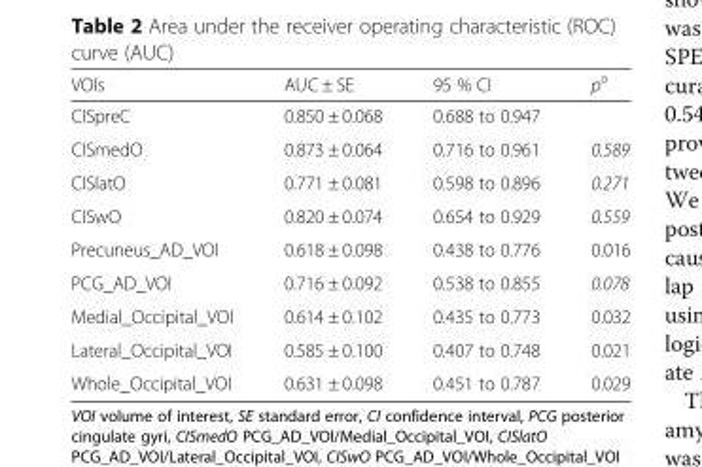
<table><thead><tr><td>VOIs</td><td>AUC ± SE</td><td>95 % CI</td><td>p<sup>a</sup></td></tr></thead><tbody><tr><td>CISpreC</td><td>0.850 ± 0.068</td><td>0.688 to 0.947</td><td></td></tr><tr><td>CISmedO</td><td>0.873 ± 0.064</td><td>0.716 to 0.961</td><td>0.589</td></tr><tr><td>CISlatO</td><td>0.771 ± 0.081</td><td>0.598 to 0.896</td><td>0.271</td></tr><tr><td>CISwO</td><td>0.820 ± 0.074</td><td>0.654 to 0.929</td><td>0.559</td></tr><tr><td>Precuneus_AD_VOI</td><td>0.618 ± 0.098</td><td>0.438 to 0.776</td><td>0.016</td></tr><tr><td>PCG_AD_VOI</td><td>0.716 ± 0.092</td><td>0.538 to 0.855</td><td>0.078</td></tr><tr><td>Medial_Occipital_VOI</td><td>0.614 ± 0.102</td><td>0.435 to 0.773</td><td>0.032</td></tr><tr><td>Lateral_Occipital_VOI</td><td>0.585 ± 0.100</td><td>0.407 to 0.748</td><td>0.021</td></tr><tr><td>Whole_Occipital_VOI</td><td>0.631 ± 0.098</td><td>0.451 to 0.787</td><td>0.029</td></tr></tbody></table>